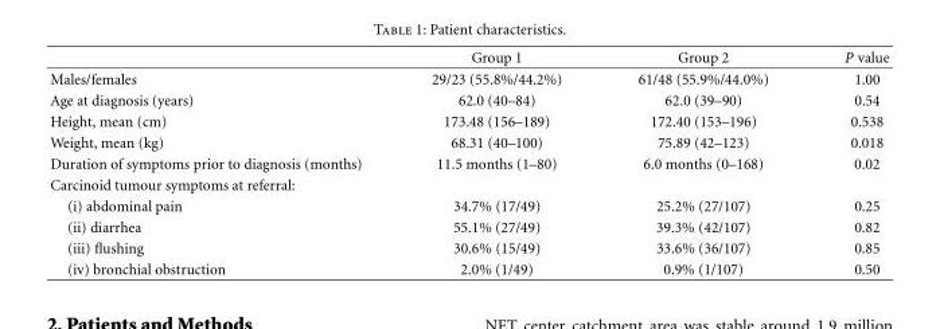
<table><thead><tr><td></td><td>Group 1</td><td>Group 2</td><td>P value</td></tr></thead><tbody><tr><td>Males/females</td><td>29/23 (55.8%/44.2%)</td><td>61/48 (55.9%/44.0%)</td><td>1.00</td></tr><tr><td>Age at diagnosis (years)</td><td>62.0 (40–84)</td><td>62.0 (39–90)</td><td>0.54</td></tr><tr><td>Height, mean (cm)</td><td>173.48 (156–189)</td><td>172.40 (153–196)</td><td>0.538</td></tr><tr><td>Weight, mean (kg)</td><td>68.31 (40–100)</td><td>75.89 (42–123)</td><td>0.018</td></tr><tr><td>Duration of symptoms prior to diagnosis (months)</td><td>11.5 months (1–80)</td><td>6.0 months (0–168)</td><td>0.02</td></tr><tr><td colspan="4">Carcinoid tumour symptoms at referral:</td></tr><tr><td>(i) abdominal pain</td><td>34.7% (17/49)</td><td>25.2% (27/107)</td><td>0.25</td></tr><tr><td>(ii) diarrhea</td><td>55.1% (27/49)</td><td>39.3% (42/107)</td><td>0.82</td></tr><tr><td>(iii) flushing</td><td>30.6% (15/49)</td><td>33.6% (36/107)</td><td>0.85</td></tr><tr><td>(iv) bronchial obstruction</td><td>2.0% (1/49)</td><td>0.9% (1/107)</td><td>0.50</td></tr></tbody></table>